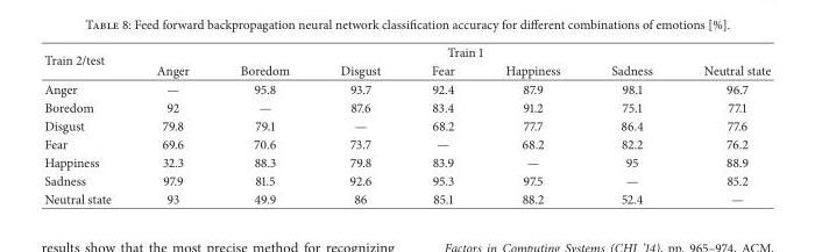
<table><thead><tr><td rowspan="2">Train 2/test</td><td colspan="7">Train 1</td></tr><tr><td>Anger</td><td>Boredom</td><td>Disgust</td><td>Fear</td><td>Happiness</td><td>Sadness</td><td>Neutral state</td></tr></thead><tbody><tr><td>Anger</td><td>—</td><td>95.8</td><td>93.7</td><td>92.4</td><td>87.9</td><td>98.1</td><td>96.7</td></tr><tr><td>Boredom</td><td>92</td><td>—</td><td>87.6</td><td>83.4</td><td>91.2</td><td>75.1</td><td>77.1</td></tr><tr><td>Disgust</td><td>79.8</td><td>79.1</td><td>—</td><td>68.2</td><td>77.7</td><td>86.4</td><td>77.6</td></tr><tr><td>Fear</td><td>69.6</td><td>70.6</td><td>73.7</td><td>—</td><td>68.2</td><td>82.2</td><td>76.2</td></tr><tr><td>Happiness</td><td>32.3</td><td>88.3</td><td>79.8</td><td>83.9</td><td>—</td><td>95</td><td>88.9</td></tr><tr><td>Sadness</td><td>97.9</td><td>81.5</td><td>92.6</td><td>95.3</td><td>97.5</td><td>—</td><td>85.2</td></tr><tr><td>Neutral state</td><td>93</td><td>49.9</td><td>86</td><td>85.1</td><td>88.2</td><td>52.4</td><td>—</td></tr></tbody></table>